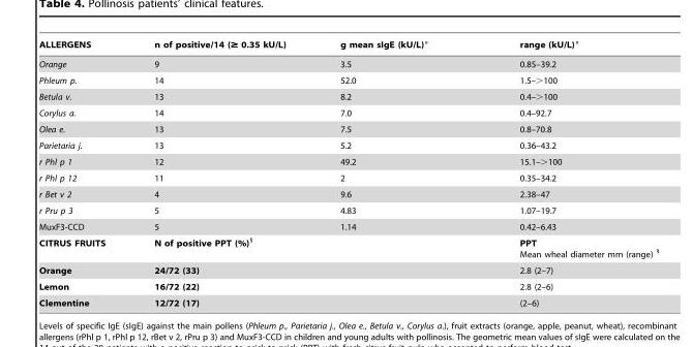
<table><thead><tr><td>ALLERGENS</td><td>n of positive/14 (≥ 0.35 kU/L)</td><td>g mean sIgE (kU/L)°</td><td>range (kU/L)°</td></tr></thead><tbody><tr><td>Orange</td><td>9</td><td>3.5</td><td>0.85–39.2</td></tr><tr><td>Phleum p.</td><td>14</td><td>52.0</td><td>1.5–&gt;100</td></tr><tr><td>Betula v.</td><td>13</td><td>8.2</td><td>0.4–&gt;100</td></tr><tr><td>Corylus a.</td><td>14</td><td>7.0</td><td>0.4–92.7</td></tr><tr><td>Olea e.</td><td>13</td><td>7.5</td><td>0.8–70.8</td></tr><tr><td>Parietaria j.</td><td>13</td><td>5.2</td><td>0.36–43.2</td></tr><tr><td>r Phl p 1</td><td>12</td><td>49.2</td><td>15.1–&gt;100</td></tr><tr><td>r Phl p 12</td><td>11</td><td>2</td><td>0.35–34.2</td></tr><tr><td>r Bet v 2</td><td>4</td><td>9.6</td><td>2.38–47</td></tr><tr><td>r Pru p 3</td><td>5</td><td>4.83</td><td>1.07–19.7</td></tr><tr><td>MuxF3-CCD</td><td>5</td><td>1.14</td><td>0.42–6.43</td></tr><tr><td>CITRUS FRUITS</td><td colspan="2">N of positive PPT (%)§</td><td>PPT Mean wheal diameter mm (range)</td></tr><tr><td>Orange</td><td colspan="2">24/72 (33)</td><td>2.8 (2–7)</td></tr><tr><td>Lemon</td><td colspan="2">16/72 (22)</td><td>2.8 (2–6)</td></tr><tr><td>Clementine</td><td colspan="2">12/72 (17)</td><td>(2–6)</td></tr></tbody></table>